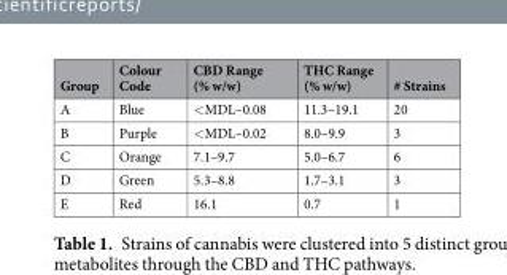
<table><thead><tr><td>Group</td><td>Colour Code</td><td>CBD Range (% w/w)</td><td>THC Range (% w/w)</td><td># Strains</td></tr></thead><tbody><tr><td>A</td><td>Blue</td><td>&lt;MDL–0.08</td><td>11.3–19.1</td><td>20</td></tr><tr><td>B</td><td>Purple</td><td>&lt;MDL–0.02</td><td>8.0–9.9</td><td>3</td></tr><tr><td>C</td><td>Orange</td><td>7.1–9.7</td><td>5.0–6.7</td><td>6</td></tr><tr><td>D</td><td>Green</td><td>5.3–8.8</td><td>1.7–3.1</td><td>3</td></tr><tr><td>E</td><td>Red</td><td>16.1</td><td>0.7</td><td>1</td></tr></tbody></table>